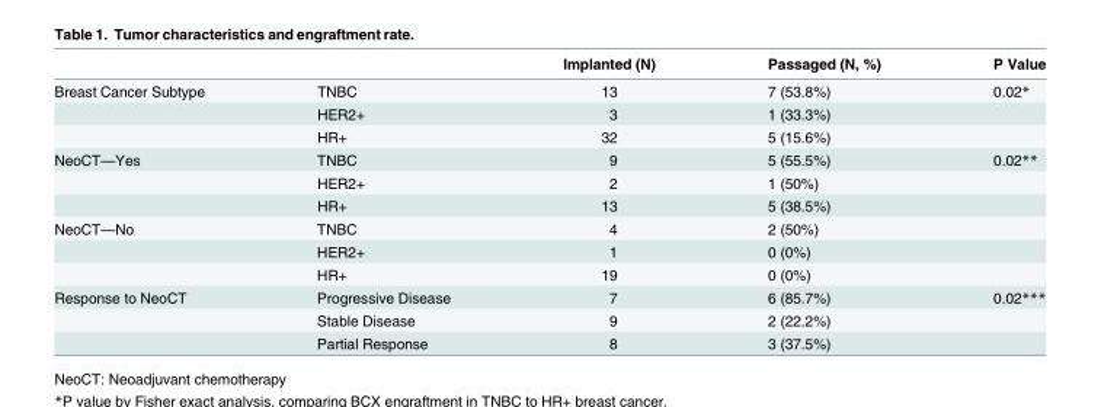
<table><thead><tr><td></td><td></td><td>Implanted (N)</td><td>Passaged (N, %)</td><td>P Value</td></tr></thead><tbody><tr><td rowspan="3">Breast Cancer Subtype</td><td>TNBC</td><td>13</td><td>7 (53.8%)</td><td>0.02*</td></tr><tr><td>HER2+</td><td>3</td><td>1 (33.3%)</td><td></td></tr><tr><td>HR+</td><td>32</td><td>5 (15.6%)</td><td></td></tr><tr><td rowspan="3">NeoCT—Yes</td><td>TNBC</td><td>9</td><td>5 (55.5%)</td><td>0.02**</td></tr><tr><td>HER2+</td><td>2</td><td>1 (50%)</td><td></td></tr><tr><td>HR+</td><td>13</td><td>5 (38.5%)</td><td></td></tr><tr><td rowspan="3">NeoCT—No</td><td>TNBC</td><td>4</td><td>2 (50%)</td><td></td></tr><tr><td>HER2+</td><td>1</td><td>0 (0%)</td><td></td></tr><tr><td>HR+</td><td>19</td><td>0 (0%)</td><td></td></tr><tr><td rowspan="3">Response to NeoCT</td><td>Progressive Disease</td><td>7</td><td>6 (85.7%)</td><td>0.02***</td></tr><tr><td>Stable Disease</td><td>9</td><td>2 (22.2%)</td><td></td></tr><tr><td>Partial Response</td><td>8</td><td>3 (37.5%)</td><td></td></tr></tbody></table>